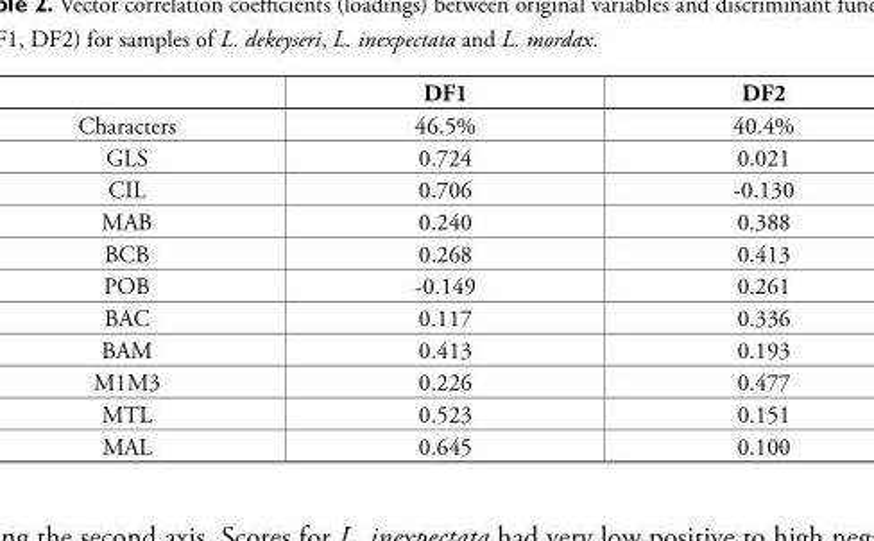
<table><thead><tr><td></td><td>DF1</td><td>DF2</td></tr></thead><tbody><tr><td>Characters</td><td>46.5%</td><td>40.4%</td></tr><tr><td>GLS</td><td>0.724</td><td>0.021</td></tr><tr><td>CIL</td><td>0.706</td><td>-0.130</td></tr><tr><td>MAB</td><td>0.240</td><td>0.388</td></tr><tr><td>BCB</td><td>0.268</td><td>0.413</td></tr><tr><td>POB</td><td>-0.149</td><td>0.261</td></tr><tr><td>BAC</td><td>0.117</td><td>0.336</td></tr><tr><td>BAM</td><td>0.413</td><td>0.193</td></tr><tr><td>M1M3</td><td>0.226</td><td>0.477</td></tr><tr><td>MTL</td><td>0.523</td><td>0.151</td></tr><tr><td>MAL</td><td>0.645</td><td>0.100</td></tr></tbody></table>